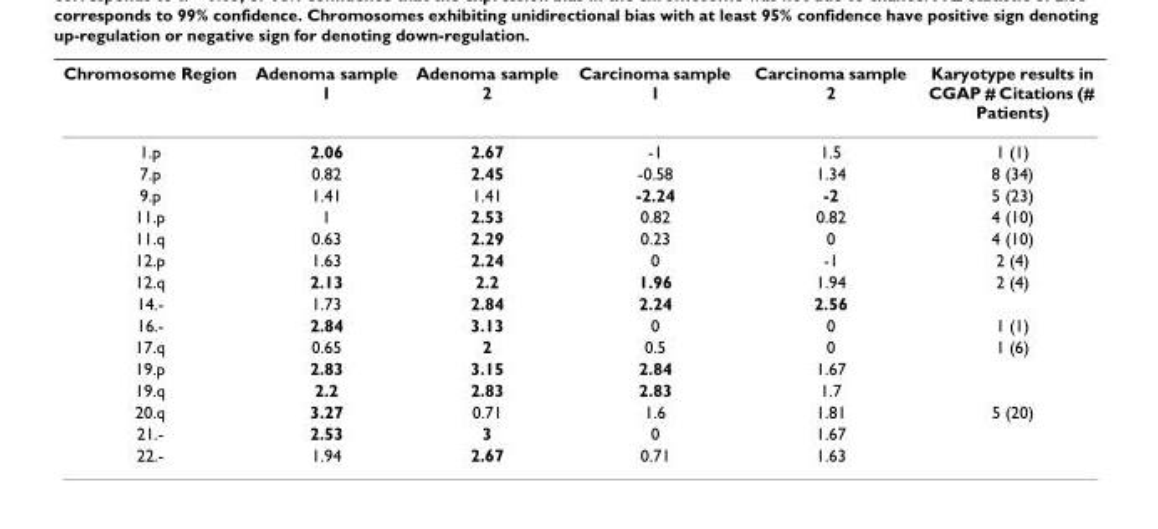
<table><thead><tr><td>Chromosome Region</td><td>Adenoma sample 1</td><td>Adenoma sample 2</td><td>Carcinoma sample 1</td><td>Carcinoma sample 2</td><td>Karyotype results in CGAP # Citations (# Patients)</td></tr></thead><tbody><tr><td>1.p</td><td>2.06</td><td>2.67</td><td>-1</td><td>1.5</td><td>1 (1)</td></tr><tr><td>7.p</td><td>0.82</td><td>2.45</td><td>-0.58</td><td>1.34</td><td>8 (34)</td></tr><tr><td>9.p</td><td>1.41</td><td>1.41</td><td>-2.24</td><td>-2</td><td>5 (23)</td></tr><tr><td>11.p</td><td>1</td><td>2.53</td><td>0.82</td><td>0.82</td><td>4 (10)</td></tr><tr><td>11.q</td><td>0.63</td><td>2.29</td><td>0.23</td><td>0</td><td>4 (10)</td></tr><tr><td>12.p</td><td>1.63</td><td>2.24</td><td>0</td><td>-1</td><td>2 (4)</td></tr><tr><td>12.q</td><td>2.13</td><td>2.2</td><td>1.96</td><td>1.94</td><td>2 (4)</td></tr><tr><td>14.-</td><td>1.73</td><td>2.84</td><td>2.24</td><td>2.56</td><td></td></tr><tr><td>16.-</td><td>2.84</td><td>3.13</td><td>0</td><td>0</td><td>1 (1)</td></tr><tr><td>17.q</td><td>0.65</td><td>2</td><td>0.5</td><td>0</td><td>1 (6)</td></tr><tr><td>19.p</td><td>2.83</td><td>3.15</td><td>2.84</td><td>1.67</td><td></td></tr><tr><td>19.q</td><td>2.2</td><td>2.83</td><td>2.83</td><td>1.7</td><td></td></tr><tr><td>20.q</td><td>3.27</td><td>0.71</td><td>1.6</td><td>1.81</td><td>5 (20)</td></tr><tr><td>21.-</td><td>2.53</td><td>3</td><td>0</td><td>1.67</td><td></td></tr><tr><td>22.-</td><td>1.94</td><td>2.67</td><td>0.71</td><td>1.63</td><td></td></tr></tbody></table>